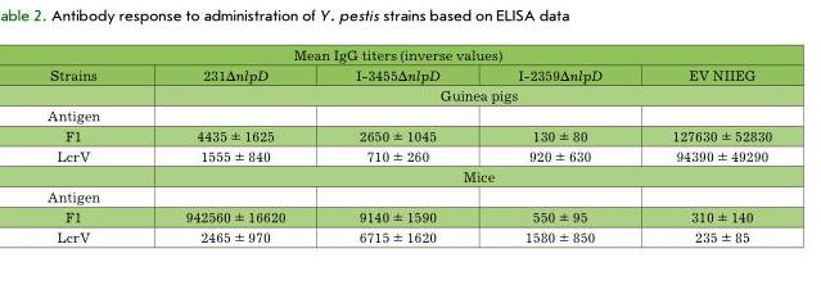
<table><thead><tr><td colspan="5">Mean IgG titers (inverse values)</td></tr><tr><td>Strains</td><td>231∆nlpD</td><td>I-3455∆nlpD</td><td>I-2359∆nlpD</td><td>EV NIIEG</td></tr></thead><tbody><tr><td colspan="5">Guinea pigs</td></tr><tr><td colspan="5">Antigen</td></tr><tr><td>F1</td><td>4435 ± 1625</td><td>2650 ± 1045</td><td>130 ± 80</td><td>127630 ± 52830</td></tr><tr><td>LcrV</td><td>1555 ± 840</td><td>710 ± 260</td><td>920 ± 630</td><td>94390 ± 49290</td></tr><tr><td colspan="5">Mice</td></tr><tr><td colspan="5">Antigen</td></tr><tr><td>F1</td><td>942560 ± 16620</td><td>9140 ± 1590</td><td>550 ± 95</td><td>310 ± 140</td></tr><tr><td>LcrV</td><td>2465 ± 970</td><td>6715 ± 1620</td><td>1580 ± 850</td><td>235 ± 85</td></tr></tbody></table>